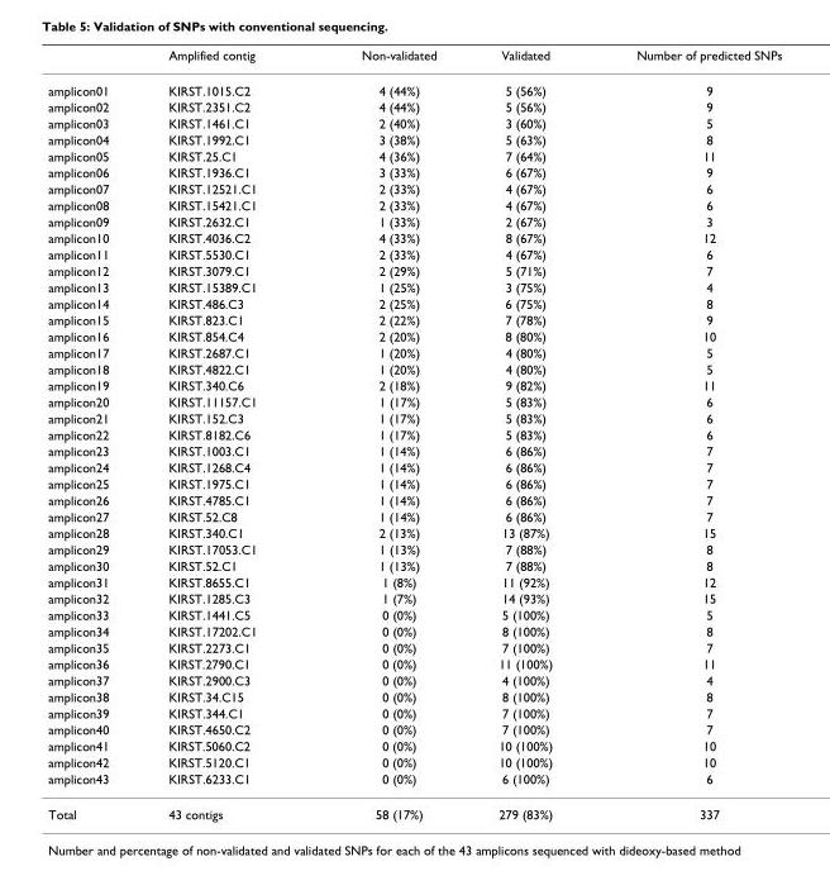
<table><thead><tr><td></td><td>Amplified contig</td><td>Non-validated</td><td>Validated</td><td>Number of predicted SNPs</td></tr></thead><tbody><tr><td>amplicon01</td><td>KIRST.1015.C2</td><td>4 (44%)</td><td>5 (56%)</td><td>9</td></tr><tr><td>amplicon02</td><td>KIRST.2351.C2</td><td>4 (44%)</td><td>5 (56%)</td><td>9</td></tr><tr><td>amplicon03</td><td>KIRST.1461.C1</td><td>2 (40%)</td><td>3 (60%)</td><td>5</td></tr><tr><td>amplicon04</td><td>KIRST.1992.C1</td><td>3 (38%)</td><td>5 (63%)</td><td>8</td></tr><tr><td>amplicon05</td><td>KIRST.25.C1</td><td>4 (36%)</td><td>7 (64%)</td><td>11</td></tr><tr><td>amplicon06</td><td>KIRST.1936.C1</td><td>3 (33%)</td><td>6 (67%)</td><td>9</td></tr><tr><td>amplicon07</td><td>KIRST.12521.C1</td><td>2 (33%)</td><td>4 (67%)</td><td>6</td></tr><tr><td>amplicon08</td><td>KIRST.15421.C1</td><td>2 (33%)</td><td>4 (67%)</td><td>6</td></tr><tr><td>amplicon09</td><td>KIRST.2632.C1</td><td>1 (33%)</td><td>2 (67%)</td><td>3</td></tr><tr><td>amplicon10</td><td>KIRST.4036.C2</td><td>4 (33%)</td><td>8 (67%)</td><td>12</td></tr><tr><td>amplicon11</td><td>KIRST.5530.C1</td><td>2 (33%)</td><td>4 (67%)</td><td>6</td></tr><tr><td>amplicon12</td><td>KIRST.3079.C1</td><td>2 (29%)</td><td>5 (71%)</td><td>7</td></tr><tr><td>amplicon13</td><td>KIRST.15389.C1</td><td>1 (25%)</td><td>3 (75%)</td><td>4</td></tr><tr><td>amplicon14</td><td>KIRST.486.C3</td><td>2 (25%)</td><td>6 (75%)</td><td>8</td></tr><tr><td>amplicon15</td><td>KIRST.823.C1</td><td>2 (22%)</td><td>7 (78%)</td><td>9</td></tr><tr><td>amplicon16</td><td>KIRST.854.C4</td><td>2 (20%)</td><td>8 (80%)</td><td>10</td></tr><tr><td>amplicon17</td><td>KIRST.2687.C1</td><td>1 (20%)</td><td>4 (80%)</td><td>5</td></tr><tr><td>amplicon18</td><td>KIRST.4822.C1</td><td>1 (20%)</td><td>4 (80%)</td><td>5</td></tr><tr><td>amplicon19</td><td>KIRST.340.C6</td><td>2 (18%)</td><td>9 (82%)</td><td>11</td></tr><tr><td>amplicon20</td><td>KIRST.11157.C1</td><td>1 (17%)</td><td>5 (83%)</td><td>6</td></tr><tr><td>amplicon21</td><td>KIRST.152.C3</td><td>1 (17%)</td><td>5 (83%)</td><td>6</td></tr><tr><td>amplicon22</td><td>KIRST.8182.C6</td><td>1 (17%)</td><td>5 (83%)</td><td>6</td></tr><tr><td>amplicon23</td><td>KIRST.1003.C1</td><td>1 (14%)</td><td>6 (86%)</td><td>7</td></tr><tr><td>amplicon24</td><td>KIRST.1268.C4</td><td>1 (14%)</td><td>6 (86%)</td><td>7</td></tr><tr><td>amplicon25</td><td>KIRST.1975.C1</td><td>1 (14%)</td><td>6 (86%)</td><td>7</td></tr><tr><td>amplicon26</td><td>KIRST.4785.C1</td><td>1 (14%)</td><td>6 (86%)</td><td>7</td></tr><tr><td>amplicon27</td><td>KIRST.52.C8</td><td>1 (14%)</td><td>6 (86%)</td><td>7</td></tr><tr><td>amplicon28</td><td>KIRST.340.C1</td><td>2 (13%)</td><td>13 (87%)</td><td>15</td></tr><tr><td>amplicon29</td><td>KIRST.17053.C1</td><td>1 (13%)</td><td>7 (88%)</td><td>8</td></tr><tr><td>amplicon30</td><td>KIRST.52.C1</td><td>1 (13%)</td><td>7 (88%)</td><td>8</td></tr><tr><td>amplicon31</td><td>KIRST.8655.C1</td><td>1 (8%)</td><td>11 (92%)</td><td>12</td></tr><tr><td>amplicon32</td><td>KIRST.1285.C3</td><td>1 (7%)</td><td>14 (93%)</td><td>15</td></tr><tr><td>amplicon33</td><td>KIRST.1441.C5</td><td>0 (0%)</td><td>5 (100%)</td><td>5</td></tr><tr><td>amplicon34</td><td>KIRST.17202.C1</td><td>0 (0%)</td><td>8 (100%)</td><td>8</td></tr><tr><td>amplicon35</td><td>KIRST.2273.C1</td><td>0 (0%)</td><td>7 (100%)</td><td>7</td></tr><tr><td>amplicon36</td><td>KIRST.2790.C1</td><td>0 (0%)</td><td>11 (100%)</td><td>11</td></tr><tr><td>amplicon37</td><td>KIRST.2900.C3</td><td>0 (0%)</td><td>4 (100%)</td><td>4</td></tr><tr><td>amplicon38</td><td>KIRST.34.C15</td><td>0 (0%)</td><td>8 (100%)</td><td>8</td></tr><tr><td>amplicon39</td><td>KIRST.344.C1</td><td>0 (0%)</td><td>7 (100%)</td><td>7</td></tr><tr><td>amplicon40</td><td>KIRST.4650.C2</td><td>0 (0%)</td><td>7 (100%)</td><td>7</td></tr><tr><td>amplicon41</td><td>KIRST.5060.C2</td><td>0 (0%)</td><td>10 (100%)</td><td>10</td></tr><tr><td>amplicon42</td><td>KIRST.5120.C1</td><td>0 (0%)</td><td>10 (100%)</td><td>10</td></tr><tr><td>amplicon43</td><td>KIRST.6233.C1</td><td>0 (0%)</td><td>6 (100%)</td><td>6</td></tr><tr><td>Total</td><td>43 contigs</td><td>58 (17%)</td><td>279 (83%)</td><td>337</td></tr></tbody></table>